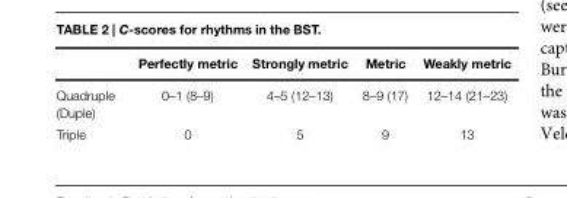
<table><thead><tr><td></td><td>Perfectly metric</td><td>Strongly metric</td><td>Metric</td><td>Weakly metric</td></tr></thead><tbody><tr><td>Quadruple (Duple)</td><td>0–1 (8–9)</td><td>4–5 (12–13)</td><td>8–9 (17)</td><td>12–14 (21–23)</td></tr><tr><td>Triple</td><td>0</td><td>5</td><td>9</td><td>13</td></tr></tbody></table>